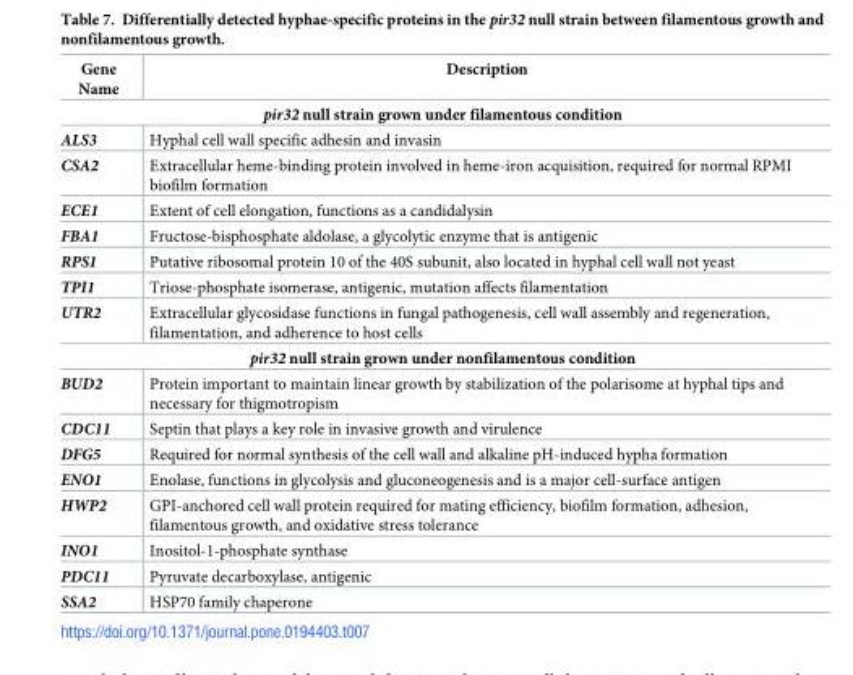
<table><thead><tr><td>Gene Name</td><td>Description</td></tr></thead><tbody><tr><td colspan="2">pir32 null strain grown under filamentous condition</td></tr><tr><td>ALS3</td><td>Hyphal cell wall specific adhesin and invasin</td></tr><tr><td>CSA2</td><td>Extracellular heme-binding protein involved in heme-iron acquisition, required for normal RPMI biofilm formation</td></tr><tr><td>ECE1</td><td>Extent of cell elongation, functions as a candidalysin</td></tr><tr><td>FBA1</td><td>Fructose-bisphosphate aldolase, a glycolytic enzyme that is antigenic</td></tr><tr><td>RPS1</td><td>Putative ribosomal protein 10 of the 40S subunit, also located in hyphal cell wall not yeast</td></tr><tr><td>TPI1</td><td>Triose-phosphate isomerase, antigenic, mutation affects filamentation</td></tr><tr><td>UTR2</td><td>Extracellular glycosidase functions in fungal pathogenesis, cell wall assembly and regeneration, filamentation, and adherence to host cells</td></tr><tr><td colspan="2">pir32 null strain grown under nonfilamentous condition</td></tr><tr><td>BUD2</td><td>Protein important to maintain linear growth by stabilization of the polarisome at hyphal tips and necessary for thigmotropism</td></tr><tr><td>CDC11</td><td>Septin that plays a key role in invasive growth and virulence</td></tr><tr><td>DFG5</td><td>Required for normal synthesis of the cell wall and alkaline pH-induced hypha formation</td></tr><tr><td>ENO1</td><td>Enolase, functions in glycolysis and gluconeogenesis and is a major cell-surface antigen</td></tr><tr><td>HWP2</td><td>GPI-anchored cell wall protein required for mating efficiency, biofilm formation, adhesion, filamentous growth, and oxidative stress tolerance</td></tr><tr><td>INO1</td><td>Inositol-1-phosphate synthase</td></tr><tr><td>PDC11</td><td>Pyruvate decarboxylase, antigenic</td></tr><tr><td>SSA2</td><td>HSP70 family chaperone</td></tr></tbody></table>